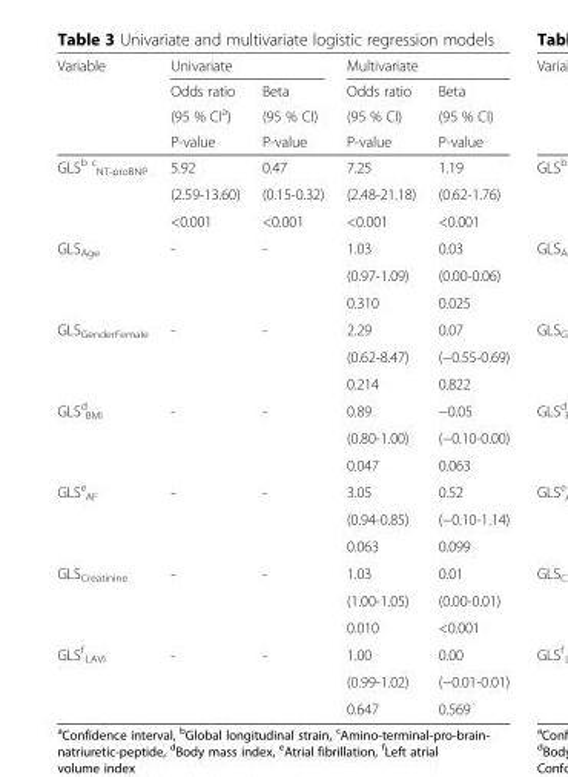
<table><thead><tr><td rowspan="4">Variable</td><td colspan="2">Univariate</td><td colspan="2">Multivariate</td></tr><tr><td rowspan="3">Odds ratio (95 % CI<sup>a</sup>) P-value</td><td rowspan="3">Beta (95 % CI) P-value</td><td rowspan="3">Odds ratio (95 % CI) P-value</td><td rowspan="3">Beta (95 % CI) P-value</td></tr><tr></tr><tr></tr></thead><tbody><tr><td rowspan="3">GLS<sup>b</sup> <sub>NT-proBNP</sub> <sup>c</sup></td><td>5.92</td><td>0.47</td><td>7.25</td><td>1.19</td></tr><tr><td>(2.59-13.60)</td><td>(0.15-0.32)</td><td>(2.48-21.18)</td><td>(0.62-1.76)</td></tr><tr><td>&lt;0.001</td><td>&lt;0.001</td><td>&lt;0.001</td><td>&lt;0.001</td></tr><tr><td rowspan="3">GLS<sub>Age</sub></td><td>-</td><td>-</td><td>1.03</td><td>0.03</td></tr><tr><td></td><td></td><td>(0.97-1.09)</td><td>(0.00-0.06)</td></tr><tr><td></td><td></td><td>0.310</td><td>0.025</td></tr><tr><td rowspan="3">GLS<sub>GenderFemale</sub></td><td>-</td><td>-</td><td>2.29</td><td>0.07</td></tr><tr><td></td><td></td><td>(0.62-8.47)</td><td>(−0.55-0.69)</td></tr><tr><td></td><td></td><td>0.214</td><td>0.822</td></tr><tr><td rowspan="3">GLS <sub>BMI</sub> <sup>d</sup></td><td>-</td><td>-</td><td>0.89</td><td>−0.05</td></tr><tr><td></td><td></td><td>(0.80-1.00)</td><td>(−0.10-0.00)</td></tr><tr><td></td><td></td><td>0.047</td><td>0.063</td></tr><tr><td rowspan="3">GLS <sub>AF</sub> <sup>e</sup></td><td>-</td><td>-</td><td>3.05</td><td>0.52</td></tr><tr><td></td><td></td><td>(0.94-0.85)</td><td>(−0.10-1.14)</td></tr><tr><td></td><td></td><td>0.063</td><td>0.099</td></tr><tr><td rowspan="3">GLS<sub>Creatinine</sub></td><td>-</td><td>-</td><td>1.03</td><td>0.01</td></tr><tr><td></td><td></td><td>(1.00-1.05)</td><td>(0.00-0.01)</td></tr><tr><td></td><td></td><td>0.010</td><td>&lt;0.001</td></tr><tr><td rowspan="3">GLS <sub>LAVI</sub> <sup>f</sup></td><td>-</td><td>-</td><td>1.00</td><td>0.00</td></tr><tr><td></td><td></td><td>(0.99-1.02)</td><td>(−0.01-0.01)</td></tr><tr><td></td><td></td><td>0.647</td><td>0.569</td></tr></tbody></table>